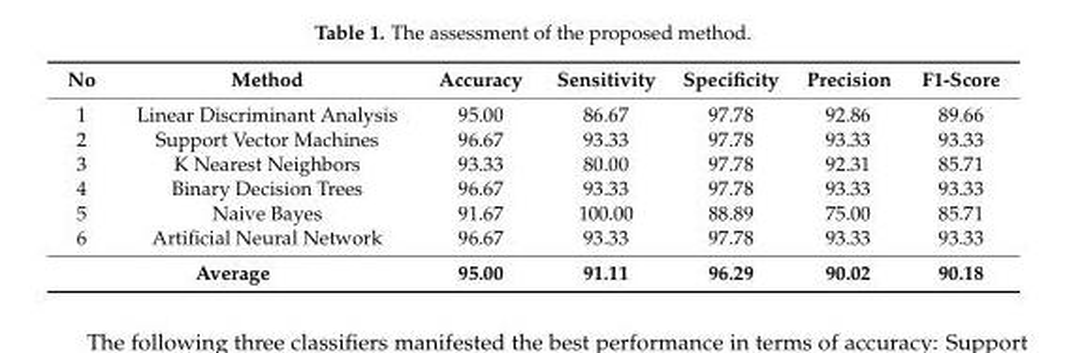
<table><thead><tr><td>No</td><td>Method</td><td>Accuracy</td><td>Sensitivity</td><td>Specificity</td><td>Precision</td><td>F1-Score</td></tr></thead><tbody><tr><td>1</td><td>Linear Discriminant Analysis</td><td>95.00</td><td>86.67</td><td>97.78</td><td>92.86</td><td>89.66</td></tr><tr><td>2</td><td>Support Vector Machines</td><td>96.67</td><td>93.33</td><td>97.78</td><td>93.33</td><td>93.33</td></tr><tr><td>3</td><td>K Nearest Neighbors</td><td>93.33</td><td>80.00</td><td>97.78</td><td>92.31</td><td>85.71</td></tr><tr><td>4</td><td>Binary Decision Trees</td><td>96.67</td><td>93.33</td><td>97.78</td><td>93.33</td><td>93.33</td></tr><tr><td>5</td><td>Naive Bayes</td><td>91.67</td><td>100.00</td><td>88.89</td><td>75.00</td><td>85.71</td></tr><tr><td>6</td><td>Artificial Neural Network</td><td>96.67</td><td>93.33</td><td>97.78</td><td>93.33</td><td>93.33</td></tr><tr><td colspan="2">Average</td><td>95.00</td><td>91.11</td><td>96.29</td><td>90.02</td><td>90.18</td></tr></tbody></table>